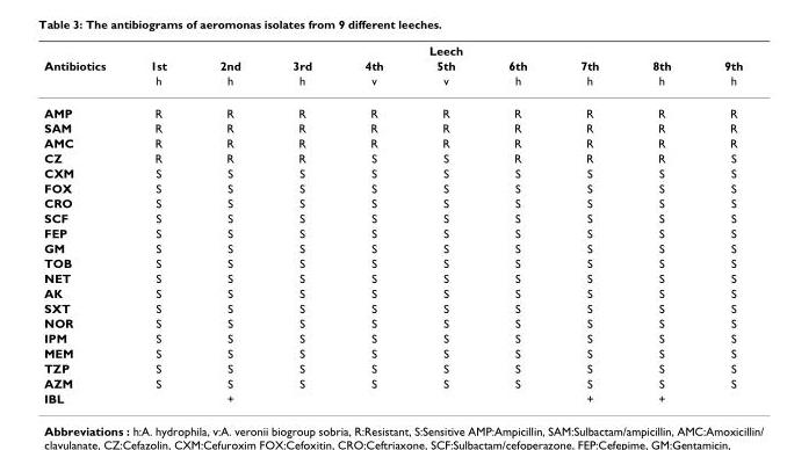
<table><thead><tr><td rowspan="3">Antibiotics</td><td colspan="9">Leech</td></tr><tr><td rowspan="2">1st h</td><td rowspan="2">2nd h</td><td rowspan="2">3rd h</td><td rowspan="2">4th v</td><td rowspan="2">5th v</td><td rowspan="2">6th h</td><td rowspan="2">7th h</td><td rowspan="2">8th h</td><td rowspan="2">9th h</td></tr><tr></tr></thead><tbody><tr><td>AMP</td><td>R</td><td>R</td><td>R</td><td>R</td><td>R</td><td>R</td><td>R</td><td>R</td><td>R</td></tr><tr><td>SAM</td><td>R</td><td>R</td><td>R</td><td>R</td><td>R</td><td>R</td><td>R</td><td>R</td><td>R</td></tr><tr><td>AMC</td><td>R</td><td>R</td><td>R</td><td>R</td><td>R</td><td>R</td><td>R</td><td>R</td><td>R</td></tr><tr><td>CZ</td><td>R</td><td>R</td><td>R</td><td>S</td><td>S</td><td>R</td><td>R</td><td>R</td><td>S</td></tr><tr><td>CXM</td><td>S</td><td>S</td><td>S</td><td>S</td><td>S</td><td>S</td><td>S</td><td>S</td><td>S</td></tr><tr><td>FOX</td><td>S</td><td>S</td><td>S</td><td>S</td><td>S</td><td>S</td><td>S</td><td>S</td><td>S</td></tr><tr><td>CRO</td><td>S</td><td>S</td><td>S</td><td>S</td><td>S</td><td>S</td><td>S</td><td>S</td><td>S</td></tr><tr><td>SCF</td><td>S</td><td>S</td><td>S</td><td>S</td><td>S</td><td>S</td><td>S</td><td>S</td><td>S</td></tr><tr><td>FEP</td><td>S</td><td>S</td><td>S</td><td>S</td><td>S</td><td>S</td><td>S</td><td>S</td><td>S</td></tr><tr><td>GM</td><td>S</td><td>S</td><td>S</td><td>S</td><td>S</td><td>S</td><td>S</td><td>S</td><td>S</td></tr><tr><td>TOB</td><td>S</td><td>S</td><td>S</td><td>S</td><td>S</td><td>S</td><td>S</td><td>S</td><td>S</td></tr><tr><td>NET</td><td>S</td><td>S</td><td>S</td><td>S</td><td>S</td><td>S</td><td>S</td><td>S</td><td>S</td></tr><tr><td>AK</td><td>S</td><td>S</td><td>S</td><td>S</td><td>S</td><td>S</td><td>S</td><td>S</td><td>S</td></tr><tr><td>SXT</td><td>S</td><td>S</td><td>S</td><td>S</td><td>S</td><td>S</td><td>S</td><td>S</td><td>S</td></tr><tr><td>NOR</td><td>S</td><td>S</td><td>S</td><td>S</td><td>S</td><td>S</td><td>S</td><td>S</td><td>S</td></tr><tr><td>IPM</td><td>S</td><td>S</td><td>S</td><td>S</td><td>S</td><td>S</td><td>S</td><td>S</td><td>S</td></tr><tr><td>MEM</td><td>S</td><td>S</td><td>S</td><td>S</td><td>S</td><td>S</td><td>S</td><td>S</td><td>S</td></tr><tr><td>TZP</td><td>S</td><td>S</td><td>S</td><td>S</td><td>S</td><td>S</td><td>S</td><td>S</td><td>S</td></tr><tr><td>AZM</td><td>S</td><td>S</td><td>S</td><td>S</td><td>S</td><td>S</td><td>S</td><td>S</td><td>S</td></tr><tr><td>IBL</td><td></td><td>+</td><td></td><td></td><td></td><td></td><td>+</td><td>+</td><td></td></tr></tbody></table>